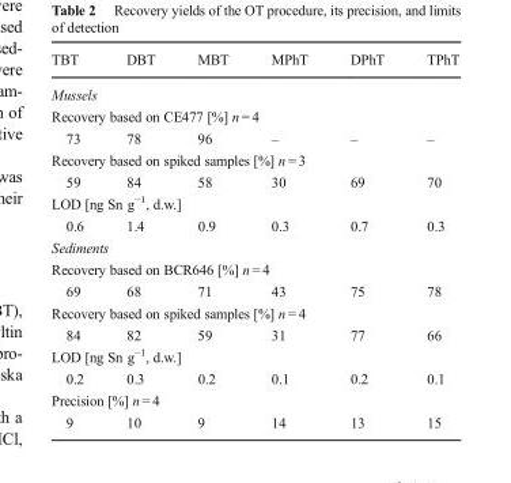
<table><thead><tr><td>TBT</td><td>DBT</td><td>MBT</td><td>MPhT</td><td>DPhT</td><td>TPhT</td></tr></thead><tbody><tr><td colspan="6">Mussels</td></tr><tr><td colspan="6">Recovery based on CE477 [%] n = 4</td></tr><tr><td>73</td><td>78</td><td>96</td><td>–</td><td>–</td><td>–</td></tr><tr><td colspan="6">Recovery based on spiked samples [%] n = 3</td></tr><tr><td>59</td><td>84</td><td>58</td><td>30</td><td>69</td><td>70</td></tr><tr><td colspan="6">LOD [ng Sn g<sup>−1</sup>, d.w.]</td></tr><tr><td>0.6</td><td>1.4</td><td>0.9</td><td>0.3</td><td>0.7</td><td>0.3</td></tr><tr><td colspan="6">Sediments</td></tr><tr><td colspan="6">Recovery based on BCR646 [%] n = 4</td></tr><tr><td>69</td><td>68</td><td>71</td><td>43</td><td>75</td><td>78</td></tr><tr><td colspan="6">Recovery based on spiked samples [%] n = 4</td></tr><tr><td>84</td><td>82</td><td>59</td><td>31</td><td>77</td><td>66</td></tr><tr><td colspan="6">LOD [ng Sn g<sup>−1</sup>, d.w.]</td></tr><tr><td>0.2</td><td>0.3</td><td>0.2</td><td>0.1</td><td>0.2</td><td>0.1</td></tr><tr><td colspan="6">Precision [%] n = 4</td></tr><tr><td>9</td><td>10</td><td>9</td><td>14</td><td>13</td><td>15</td></tr></tbody></table>